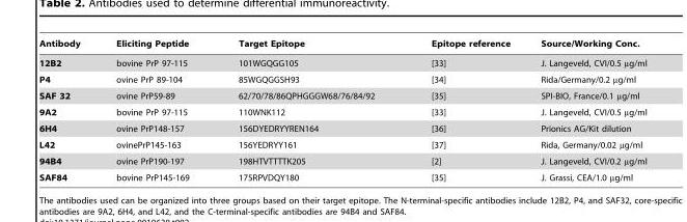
<table><thead><tr><td>Antibody</td><td>Eliciting Peptide</td><td>Target Epitope</td><td>Epitope reference</td><td>Source/Working Conc.</td></tr></thead><tbody><tr><td>12B2</td><td>bovine PrP 97-115</td><td>101WGQGG105</td><td>[33]</td><td>J. Langeveld, CVI/0.5 µg/ml</td></tr><tr><td>P4</td><td>ovine PrP 89-104</td><td>85WGQGGSH93</td><td>[34]</td><td>Rida/Germany/0.2 µg/ml</td></tr><tr><td>SAF 32</td><td>ovine PrP59-89</td><td>62/70/78/86QPHGGGW68/76/84/92</td><td>[35]</td><td>SPI-BIO, France/0.1 µg/ml</td></tr><tr><td>9A2</td><td>bovine PrP 97-115</td><td>110WNK112</td><td>[33]</td><td>J. Langeveld, CVI/0.5 µg/ml</td></tr><tr><td>6H4</td><td>ovine PrP148-157</td><td>156DYEDRYYREN164</td><td>[36]</td><td>Prionics AG/Kit dilution</td></tr><tr><td>L42</td><td>ovinePrP145-163</td><td>156YEDRYY161</td><td>[37]</td><td>Rida, Germany/0.02 µg/ml</td></tr><tr><td>94B4</td><td>ovine PrP190-197</td><td>198HTVTTTTK205</td><td>[2]</td><td>J. Langeveld, CVI/0.2 µg/ml</td></tr><tr><td>SAF84</td><td>bovine PrP145-169</td><td>175RPVDQY180</td><td>[35]</td><td>J. Grassi, CEA/1.0 µg/ml</td></tr></tbody></table>